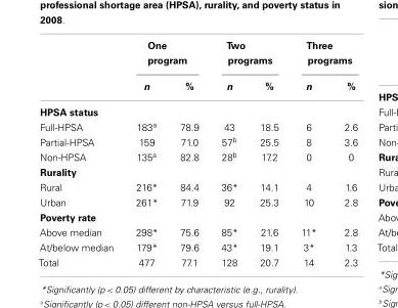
<table><thead><tr><td rowspan="2"></td><td colspan="2">One program</td><td colspan="2">Two programs</td><td colspan="2">Three programs</td></tr><tr><td>n</td><td>%</td><td>n</td><td>%</td><td>n</td><td>%</td></tr></thead><tbody><tr><td colspan="7">HPSA status</td></tr><tr><td>Full-HPSA</td><td>183<sup>a</sup></td><td>78.9</td><td>43</td><td>18.5</td><td>6</td><td>2.6</td></tr><tr><td>Partial-HPSA</td><td>159</td><td>71.0</td><td>57<sup>b</sup></td><td>25.5</td><td>8</td><td>3.6</td></tr><tr><td>Non-HPSA</td><td>135<sup>a</sup></td><td>82.8</td><td>28<sup>b</sup></td><td>17.2</td><td>0</td><td>0</td></tr><tr><td colspan="7">Rurality</td></tr><tr><td>Rural</td><td>216*</td><td>84.4</td><td>36*</td><td>14.1</td><td>4</td><td>1.6</td></tr><tr><td>Urban</td><td>261*</td><td>71.9</td><td>92</td><td>25.3</td><td>10</td><td>2.8</td></tr><tr><td colspan="7">Poverty rate</td></tr><tr><td>Above median</td><td>298*</td><td>75.6</td><td>85*</td><td>21.6</td><td>11*</td><td>2.8</td></tr><tr><td>At/below median</td><td>179*</td><td>79.6</td><td>43*</td><td>19.1</td><td>3*</td><td>1.3</td></tr><tr><td>Total</td><td>477</td><td>77.1</td><td>128</td><td>20.7</td><td>14</td><td>2.3</td></tr></tbody></table>